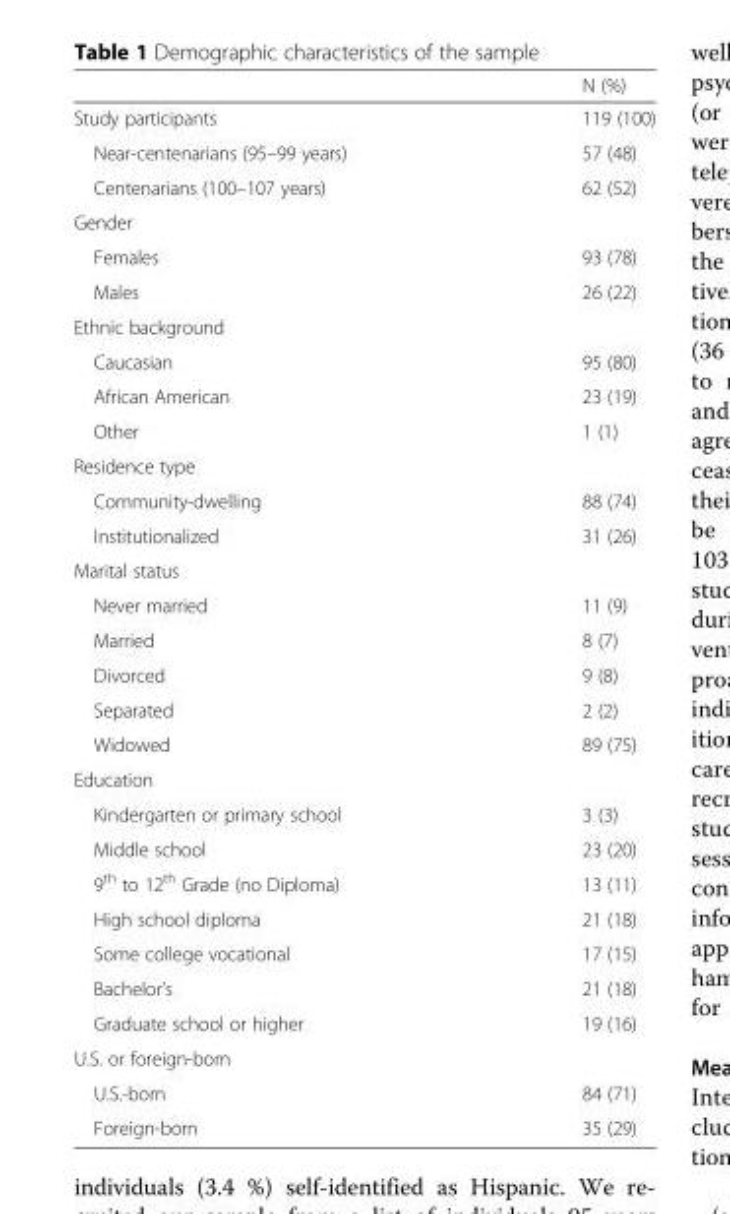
<table><thead><tr><td></td><td>N (%)</td></tr></thead><tbody><tr><td>Study participants</td><td>119 (100)</td></tr><tr><td>Near-centenarians (95–99 years)</td><td>57 (48)</td></tr><tr><td>Centenarians (100–107 years)</td><td>62 (52)</td></tr><tr><td colspan="2">Gender</td></tr><tr><td>Females</td><td>93 (78)</td></tr><tr><td>Males</td><td>26 (22)</td></tr><tr><td colspan="2">Ethnic background</td></tr><tr><td>Caucasian</td><td>95 (80)</td></tr><tr><td>African American</td><td>23 (19)</td></tr><tr><td>Other</td><td>1 (1)</td></tr><tr><td colspan="2">Residence type</td></tr><tr><td>Community-dwelling</td><td>88 (74)</td></tr><tr><td>Institutionalized</td><td>31 (26)</td></tr><tr><td colspan="2">Marital status</td></tr><tr><td>Never married</td><td>11 (9)</td></tr><tr><td>Married</td><td>8 (7)</td></tr><tr><td>Divorced</td><td>9 (8)</td></tr><tr><td>Separated</td><td>2 (2)</td></tr><tr><td>Widowed</td><td>89 (75)</td></tr><tr><td colspan="2">Education</td></tr><tr><td>Kindergarten or primary school</td><td>3 (3)</td></tr><tr><td>Middle school</td><td>23 (20)</td></tr><tr><td>9<sup>th</sup> to 12<sup>th</sup> Grade (no Diploma)</td><td>13 (11)</td></tr><tr><td>High school diploma</td><td>21 (18)</td></tr><tr><td>Some college vocational</td><td>17 (15)</td></tr><tr><td>Bachelor’s</td><td>21 (18)</td></tr><tr><td>Graduate school or higher</td><td>19 (16)</td></tr><tr><td colspan="2">U.S. or foreign-born</td></tr><tr><td>U.S.-born</td><td>84 (71)</td></tr><tr><td>Foreign-born</td><td>35 (29)</td></tr></tbody></table>